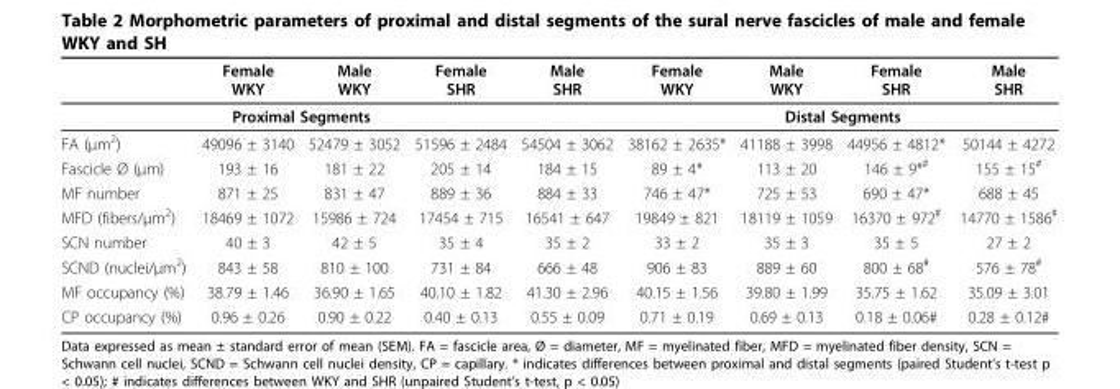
<table><thead><tr><td></td><td>Female WKY</td><td>Male WKY</td><td>Female SHR</td><td>Male SHR</td><td>Female WKY</td><td>Male WKY</td><td>Female SHR</td><td>Male SHR</td></tr></thead><tbody><tr><td></td><td colspan="2">Proximal Segments</td><td></td><td></td><td></td><td colspan="2">Distal Segments</td><td></td></tr><tr><td>FA (μm<sup>2</sup>)</td><td>49096 ± 3140</td><td>52479 ± 3052</td><td>51596 ± 2484</td><td>54504 ± 3062</td><td>38162 ± 2635*</td><td>41188 ± 3998</td><td>44956 ± 4812*</td><td>50144 ± 4272</td></tr><tr><td>Fascicle Ø (μm)</td><td>193 ± 16</td><td>181 ± 22</td><td>205 ± 14</td><td>184 ± 15</td><td>89 ± 4*</td><td>113 ± 20</td><td>146 ± 9*<sup>#</sup></td><td>155 ± 15<sup>#</sup></td></tr><tr><td>MF number</td><td>871 ± 25</td><td>831 ± 47</td><td>889 ± 36</td><td>884 ± 33</td><td>746 ± 47*</td><td>725 ± 53</td><td>690 ± 47*</td><td>688 ± 45</td></tr><tr><td>MFD (fibers/μm<sup>2</sup>)</td><td>18469 ± 1072</td><td>15986 ± 724</td><td>17454 ± 715</td><td>16541 ± 647</td><td>19849 ± 821</td><td>18119 ± 1059</td><td>16370 ± 972<sup>#</sup></td><td>14770 ± 1586<sup>#</sup></td></tr><tr><td>SCN number</td><td>40 ± 3</td><td>42 ± 5</td><td>35 ± 4</td><td>35 ± 2</td><td>33 ± 2</td><td>35 ± 3</td><td>35 ± 5</td><td>27 ± 2</td></tr><tr><td>SCND (nuclei/μm<sup>2</sup>)</td><td>843 ± 58</td><td>810 ± 100</td><td>731 ± 84</td><td>666 ± 48</td><td>906 ± 83</td><td>889 ± 60</td><td>800 ± 68<sup>#</sup></td><td>576 ± 78<sup>#</sup></td></tr><tr><td>MF occupancy (%)</td><td>38.79 ± 1.46</td><td>36.90 ± 1.65</td><td>40.10 ± 1.82</td><td>41.30 ± 2.96</td><td>40.15 ± 1.56</td><td>39.80 ± 1.99</td><td>35.75 ± 1.62</td><td>35.09 ± 3.01</td></tr><tr><td>CP occupancy (%)</td><td>0.96 ± 0.26</td><td>0.90 ± 0.22</td><td>0.40 ± 0.13</td><td>0.55 ± 0.09</td><td>0.71 ± 0.19</td><td>0.69 ± 0.13</td><td>0.18 ± 0.06#</td><td>0.28 ± 0.12#</td></tr></tbody></table>